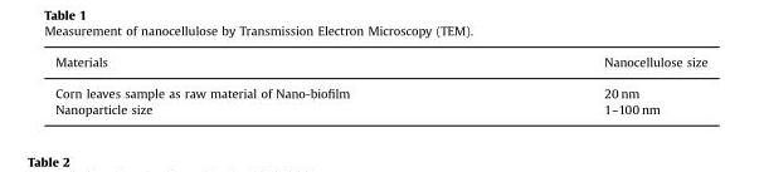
<table><thead><tr><td>Materials</td><td>Nanocellulose size</td></tr></thead><tbody><tr><td>Corn leaves sample as raw material of Nano-biofilm</td><td>20 nm</td></tr><tr><td>Nanoparticle size</td><td>1–100 nm</td></tr></tbody></table>